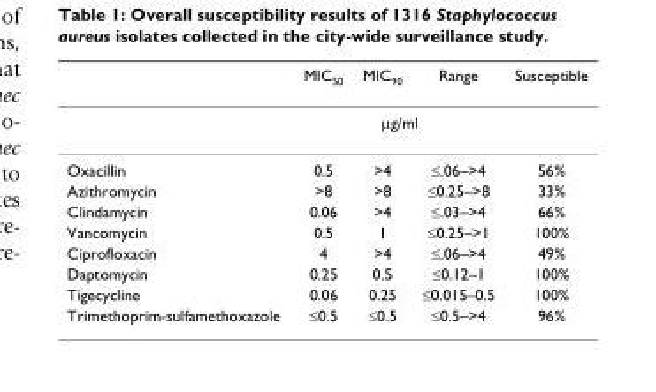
<table><thead><tr><td></td><td>MIC<sub>50</sub></td><td>MIC<sub>90</sub></td><td>Range</td><td>Susceptible</td></tr></thead><tbody><tr><td></td><td colspan="3">µg/ml</td><td></td></tr><tr><td>Oxacillin</td><td>0.5</td><td>&gt;4</td><td>≤.06–&gt;4</td><td>56%</td></tr><tr><td>Azithromycin</td><td>&gt;8</td><td>&gt;8</td><td>≤0.25–&gt;8</td><td>33%</td></tr><tr><td>Clindamycin</td><td>0.06</td><td>&gt;4</td><td>≤.03–&gt;4</td><td>66%</td></tr><tr><td>Vancomycin</td><td>0.5</td><td>1</td><td>≤0.25–&gt;1</td><td>100%</td></tr><tr><td>Ciprofloxacin</td><td>4</td><td>&gt;4</td><td>≤.06–&gt;4</td><td>49%</td></tr><tr><td>Daptomycin</td><td>0.25</td><td>0.5</td><td>≤0.12–1</td><td>100%</td></tr><tr><td>Tigecycline</td><td>0.06</td><td>0.25</td><td>≤0.015–0.5</td><td>100%</td></tr><tr><td>Trimethoprim-sulfamethoxazole</td><td>≤0.5</td><td>≤0.5</td><td>≤0.5–&gt;4</td><td>96%</td></tr></tbody></table>